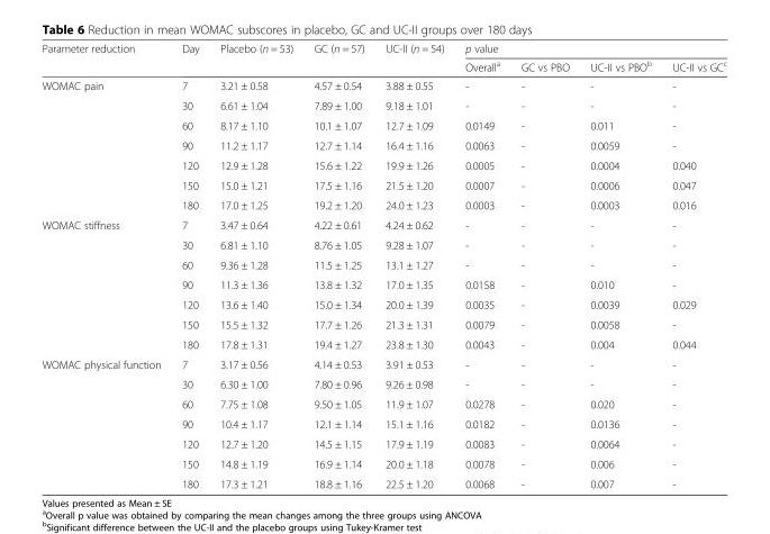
<table><thead><tr><td rowspan="2">Parameter reduction</td><td rowspan="2">Day</td><td rowspan="2">Placebo (n = 53)</td><td rowspan="2">GC (n = 57)</td><td rowspan="2">UC-II (n = 54)</td><td colspan="4">p value</td></tr><tr><td>Overall<sup>a</sup></td><td>GC vs PBO</td><td>UC-II vs PBO<sup>b</sup></td><td>UC-II vs GC<sup>c</sup></td></tr></thead><tbody><tr><td rowspan="7">WOMAC pain</td><td>7</td><td>3.21 ± 0.58</td><td>4.57 ± 0.54</td><td>3.88 ± 0.55</td><td>-</td><td>-</td><td>-</td><td>-</td></tr><tr><td>30</td><td>6.61 ± 1.04</td><td>7.89 ± 1.00</td><td>9.18 ± 1.01</td><td>-</td><td>-</td><td>-</td><td>-</td></tr><tr><td>60</td><td>8.17 ± 1.10</td><td>10.1 ± 1.07</td><td>12.7 ± 1.09</td><td>0.0149</td><td>-</td><td>0.011</td><td>-</td></tr><tr><td>90</td><td>11.2 ± 1.17</td><td>12.7 ± 1.14</td><td>16.4 ± 1.16</td><td>0.0063</td><td>-</td><td>0.0059</td><td>-</td></tr><tr><td>120</td><td>12.9 ± 1.28</td><td>15.6 ± 1.22</td><td>19.9 ± 1.26</td><td>0.0005</td><td>-</td><td>0.0004</td><td>0.040</td></tr><tr><td>150</td><td>15.0 ± 1.21</td><td>17.5 ± 1.16</td><td>21.5 ± 1.20</td><td>0.0007</td><td>-</td><td>0.0006</td><td>0.047</td></tr><tr><td>180</td><td>17.0 ± 1.25</td><td>19.2 ± 1.20</td><td>24.0 ± 1.23</td><td>0.0003</td><td>-</td><td>0.0003</td><td>0.016</td></tr><tr><td rowspan="7">WOMAC stiffness</td><td>7</td><td>3.47 ± 0.64</td><td>4.22 ± 0.61</td><td>4.24 ± 0.62</td><td>-</td><td>-</td><td>-</td><td>-</td></tr><tr><td>30</td><td>6.81 ± 1.10</td><td>8.76 ± 1.05</td><td>9.28 ± 1.07</td><td>-</td><td>-</td><td>-</td><td>-</td></tr><tr><td>60</td><td>9.36 ± 1.28</td><td>11.5 ± 1.25</td><td>13.1 ± 1.27</td><td>-</td><td>-</td><td>-</td><td>-</td></tr><tr><td>90</td><td>11.3 ± 1.36</td><td>13.8 ± 1.32</td><td>17.0 ± 1.35</td><td>0.0158</td><td>-</td><td>0.010</td><td>-</td></tr><tr><td>120</td><td>13.6 ± 1.40</td><td>15.0 ± 1.34</td><td>20.0 ± 1.39</td><td>0.0035</td><td>-</td><td>0.0039</td><td>0.029</td></tr><tr><td>150</td><td>15.5 ± 1.32</td><td>17.7 ± 1.26</td><td>21.3 ± 1.31</td><td>0.0079</td><td>-</td><td>0.0058</td><td>-</td></tr><tr><td>180</td><td>17.8 ± 1.31</td><td>19.4 ± 1.27</td><td>23.8 ± 1.30</td><td>0.0043</td><td>-</td><td>0.004</td><td>0.044</td></tr><tr><td rowspan="7">WOMAC physical function</td><td>7</td><td>3.17 ± 0.56</td><td>4.14 ± 0.53</td><td>3.91 ± 0.53</td><td>-</td><td>-</td><td>-</td><td>-</td></tr><tr><td>30</td><td>6.30 ± 1.00</td><td>7.80 ± 0.96</td><td>9.26 ± 0.98</td><td>-</td><td>-</td><td>-</td><td>-</td></tr><tr><td>60</td><td>7.75 ± 1.08</td><td>9.50 ± 1.05</td><td>11.9 ± 1.07</td><td>0.0278</td><td>-</td><td>0.020</td><td>-</td></tr><tr><td>90</td><td>10.4 ± 1.17</td><td>12.1 ± 1.14</td><td>15.1 ± 1.16</td><td>0.0182</td><td>-</td><td>0.0136</td><td>-</td></tr><tr><td>120</td><td>12.7 ± 1.20</td><td>14.5 ± 1.15</td><td>17.9 ± 1.19</td><td>0.0083</td><td>-</td><td>0.0064</td><td>-</td></tr><tr><td>150</td><td>14.8 ± 1.19</td><td>16.9 ± 1.14</td><td>20.0 ± 1.18</td><td>0.0078</td><td>-</td><td>0.006</td><td>-</td></tr><tr><td>180</td><td>17.3 ± 1.21</td><td>18.8 ± 1.16</td><td>22.5 ± 1.20</td><td>0.0068</td><td>-</td><td>0.007</td><td>-</td></tr></tbody></table>